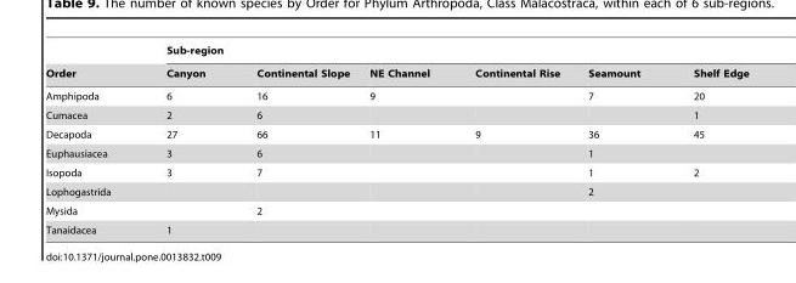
<table><thead><tr><td rowspan="2">Order</td><td colspan="6">Sub-region</td></tr><tr><td>Canyon</td><td>Continental Slope</td><td>NE Channel</td><td>Continental Rise</td><td>Seamount</td><td>Shelf Edge</td></tr></thead><tbody><tr><td>Amphipoda</td><td>6</td><td>16</td><td>9</td><td></td><td>7</td><td>20</td></tr><tr><td>Cumacea</td><td>2</td><td>6</td><td></td><td></td><td></td><td>1</td></tr><tr><td>Decapoda</td><td>27</td><td>66</td><td>11</td><td>9</td><td>36</td><td>45</td></tr><tr><td>Euphausiacea</td><td>3</td><td>6</td><td></td><td></td><td>1</td><td></td></tr><tr><td>Isopoda</td><td>3</td><td>7</td><td></td><td></td><td>1</td><td>2</td></tr><tr><td>Lophogastrida</td><td></td><td></td><td></td><td></td><td>2</td><td></td></tr><tr><td>Mysida</td><td></td><td>2</td><td></td><td></td><td></td><td></td></tr><tr><td>Tanaidacea</td><td>1</td><td></td><td></td><td></td><td></td><td></td></tr></tbody></table>